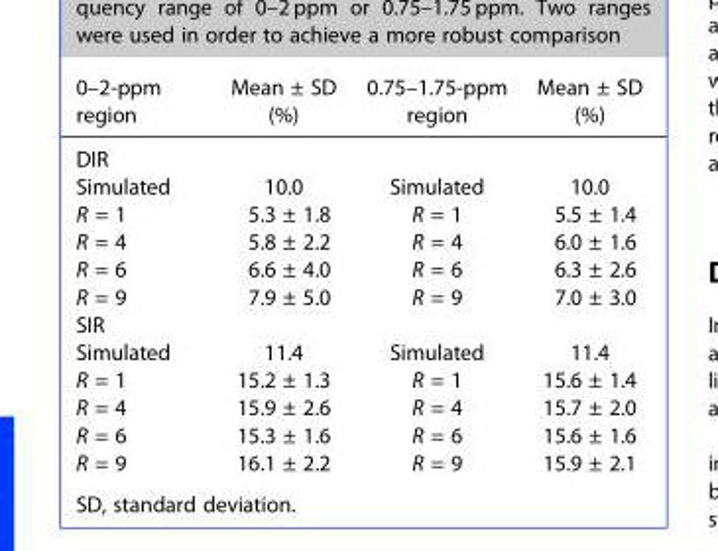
<table><thead><tr><td>0–2-ppm region</td><td>Mean ± SD (%)</td><td>0.75–1.75-ppm region</td><td>Mean ± SD (%)</td></tr></thead><tbody><tr><td colspan="4">DIR</td></tr><tr><td>Simulated</td><td>10.0</td><td>Simulated</td><td>10.0</td></tr><tr><td>R = 1</td><td>5.3 ± 1.8</td><td>R = 1</td><td>5.5 ± 1.4</td></tr><tr><td>R = 4</td><td>5.8 ± 2.2</td><td>R = 4</td><td>6.0 ± 1.6</td></tr><tr><td>R = 6</td><td>6.6 ± 4.0</td><td>R = 6</td><td>6.3 ± 2.6</td></tr><tr><td>R = 9</td><td>7.9 ± 5.0</td><td>R = 9</td><td>7.0 ± 3.0</td></tr><tr><td colspan="4">SIR</td></tr><tr><td>Simulated</td><td>11.4</td><td>Simulated</td><td>11.4</td></tr><tr><td>R = 1</td><td>15.2 ± 1.3</td><td>R = 1</td><td>15.6 ± 1.4</td></tr><tr><td>R = 4</td><td>15.9 ± 2.6</td><td>R = 4</td><td>15.7 ± 2.0</td></tr><tr><td>R = 6</td><td>15.3 ± 1.6</td><td>R = 6</td><td>15.6 ± 1.6</td></tr><tr><td>R = 9</td><td>16.1 ± 2.2</td><td>R = 9</td><td>15.9 ± 2.1</td></tr></tbody></table>